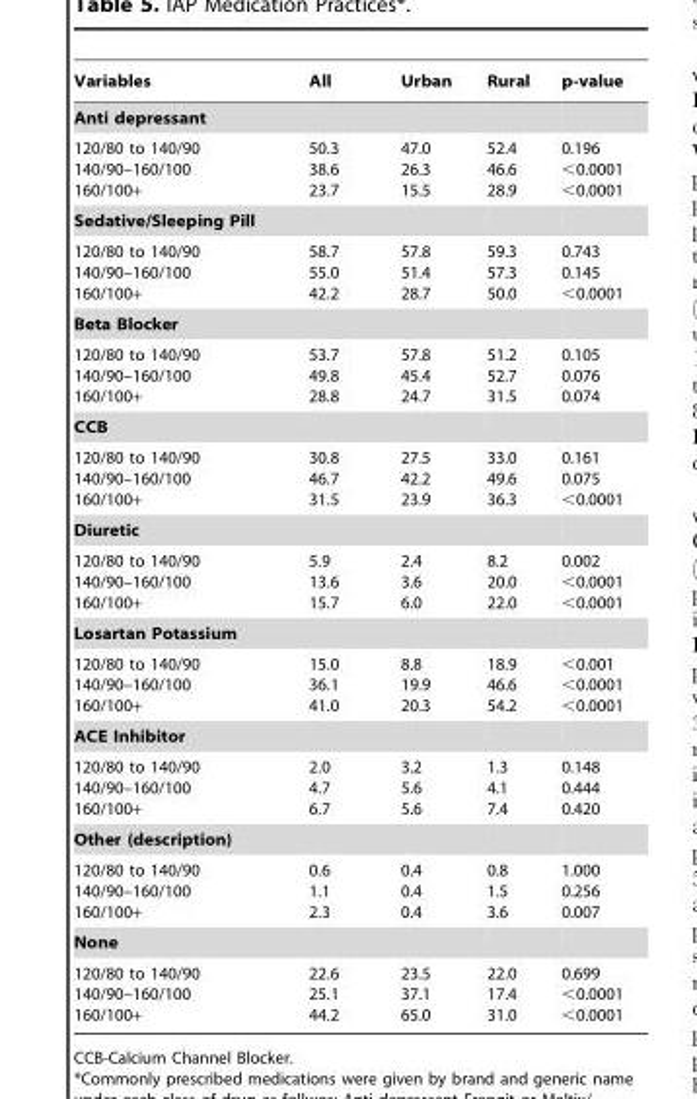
<table><thead><tr><td>Variables</td><td>All</td><td>Urban</td><td>Rural</td><td>p-value</td></tr></thead><tbody><tr><td colspan="5">Anti depressant</td></tr><tr><td>120/80 to 140/90 140/90–160/100 160/100+</td><td>50.3 38.6 23.7</td><td>47.0 26.3 15.5</td><td>52.4 46.6 28.9</td><td>0.196 &lt;0.0001 &lt;0.0001</td></tr><tr><td colspan="5">Sedative/Sleeping Pill</td></tr><tr><td>120/80 to 140/90 140/90–160/100 160/100+</td><td>58.7 55.0 42.2</td><td>57.8 51.4 28.7</td><td>59.3 57.3 50.0</td><td>0.743 0.145 &lt;0.0001</td></tr><tr><td colspan="5">Beta Blocker</td></tr><tr><td>120/80 to 140/90 140/90–160/100 160/100+</td><td>53.7 49.8 28.8</td><td>57.8 45.4 24.7</td><td>51.2 52.7 31.5</td><td>0.105 0.076 0.074</td></tr><tr><td colspan="5">CCB</td></tr><tr><td>120/80 to 140/90 140/90–160/100 160/100+</td><td>30.8 46.7 31.5</td><td>27.5 42.2 23.9</td><td>33.0 49.6 36.3</td><td>0.161 0.075 &lt;0.0001</td></tr><tr><td colspan="5">Diuretic</td></tr><tr><td>120/80 to 140/90 140/90–160/100 160/100+</td><td>5.9 13.6 15.7</td><td>2.4 3.6 6.0</td><td>8.2 20.0 22.0</td><td>0.002 &lt;0.0001 &lt;0.0001</td></tr><tr><td colspan="5">Losartan Potassium</td></tr><tr><td>120/80 to 140/90 140/90–160/100 160/100+</td><td>15.0 36.1 41.0</td><td>8.8 19.9 20.3</td><td>18.9 46.6 54.2</td><td>&lt;0.001 &lt;0.0001 &lt;0.0001</td></tr><tr><td colspan="5">ACE Inhibitor</td></tr><tr><td>120/80 to 140/90 140/90–160/100 160/100+</td><td>2.0 4.7 6.7</td><td>3.2 5.6 5.6</td><td>1.3 4.1 7.4</td><td>0.148 0.444 0.420</td></tr><tr><td colspan="5">Other (description)</td></tr><tr><td>120/80 to 140/90 140/90–160/100 160/100+</td><td>0.6 1.1 2.3</td><td>0.4 0.4 0.4</td><td>0.8 1.5 3.6</td><td>1.000 0.256 0.007</td></tr><tr><td colspan="5">None</td></tr><tr><td>120/80 to 140/90 140/90–160/100 160/100+</td><td>22.6 25.1 44.2</td><td>23.5 37.1 65.0</td><td>22.0 17.4 31.0</td><td>0.699 &lt;0.0001 &lt;0.0001</td></tr></tbody></table>